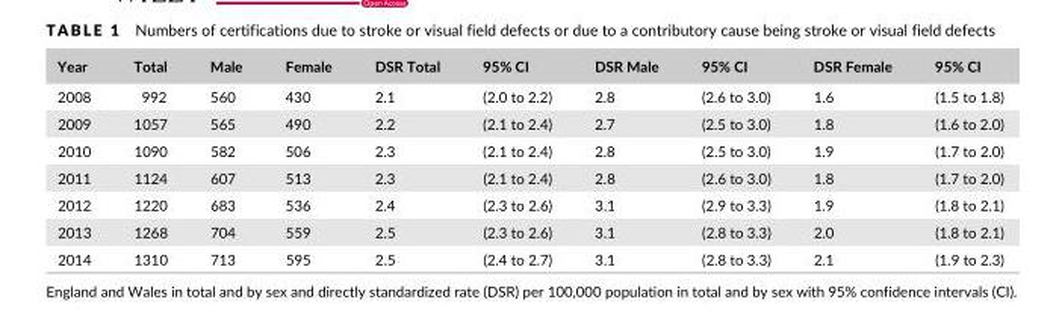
<table><thead><tr><td>Year</td><td>Total</td><td>Male</td><td>Female</td><td>DSR Total</td><td>95% CI</td><td>DSR Male</td><td>95% CI</td><td>DSR Female</td><td>95% CI</td></tr></thead><tbody><tr><td>2008</td><td>992</td><td>560</td><td>430</td><td>2.1</td><td>(2.0 to 2.2)</td><td>2.8</td><td>(2.6 to 3.0)</td><td>1.6</td><td>(1.5 to 1.8)</td></tr><tr><td>2009</td><td>1057</td><td>565</td><td>490</td><td>2.2</td><td>(2.1 to 2.4)</td><td>2.7</td><td>(2.5 to 3.0)</td><td>1.8</td><td>(1.6 to 2.0)</td></tr><tr><td>2010</td><td>1090</td><td>582</td><td>506</td><td>2.3</td><td>(2.1 to 2.4)</td><td>2.8</td><td>(2.5 to 3.0)</td><td>1.9</td><td>(1.7 to 2.0)</td></tr><tr><td>2011</td><td>1124</td><td>607</td><td>513</td><td>2.3</td><td>(2.1 to 2.4)</td><td>2.8</td><td>(2.6 to 3.0)</td><td>1.8</td><td>(1.7 to 2.0)</td></tr><tr><td>2012</td><td>1220</td><td>683</td><td>536</td><td>2.4</td><td>(2.3 to 2.6)</td><td>3.1</td><td>(2.9 to 3.3)</td><td>1.9</td><td>(1.8 to 2.1)</td></tr><tr><td>2013</td><td>1268</td><td>704</td><td>559</td><td>2.5</td><td>(2.3 to 2.6)</td><td>3.1</td><td>(2.8 to 3.3)</td><td>2.0</td><td>(1.8 to 2.1)</td></tr><tr><td>2014</td><td>1310</td><td>713</td><td>595</td><td>2.5</td><td>(2.4 to 2.7)</td><td>3.1</td><td>(2.8 to 3.3)</td><td>2.1</td><td>(1.9 to 2.3)</td></tr></tbody></table>